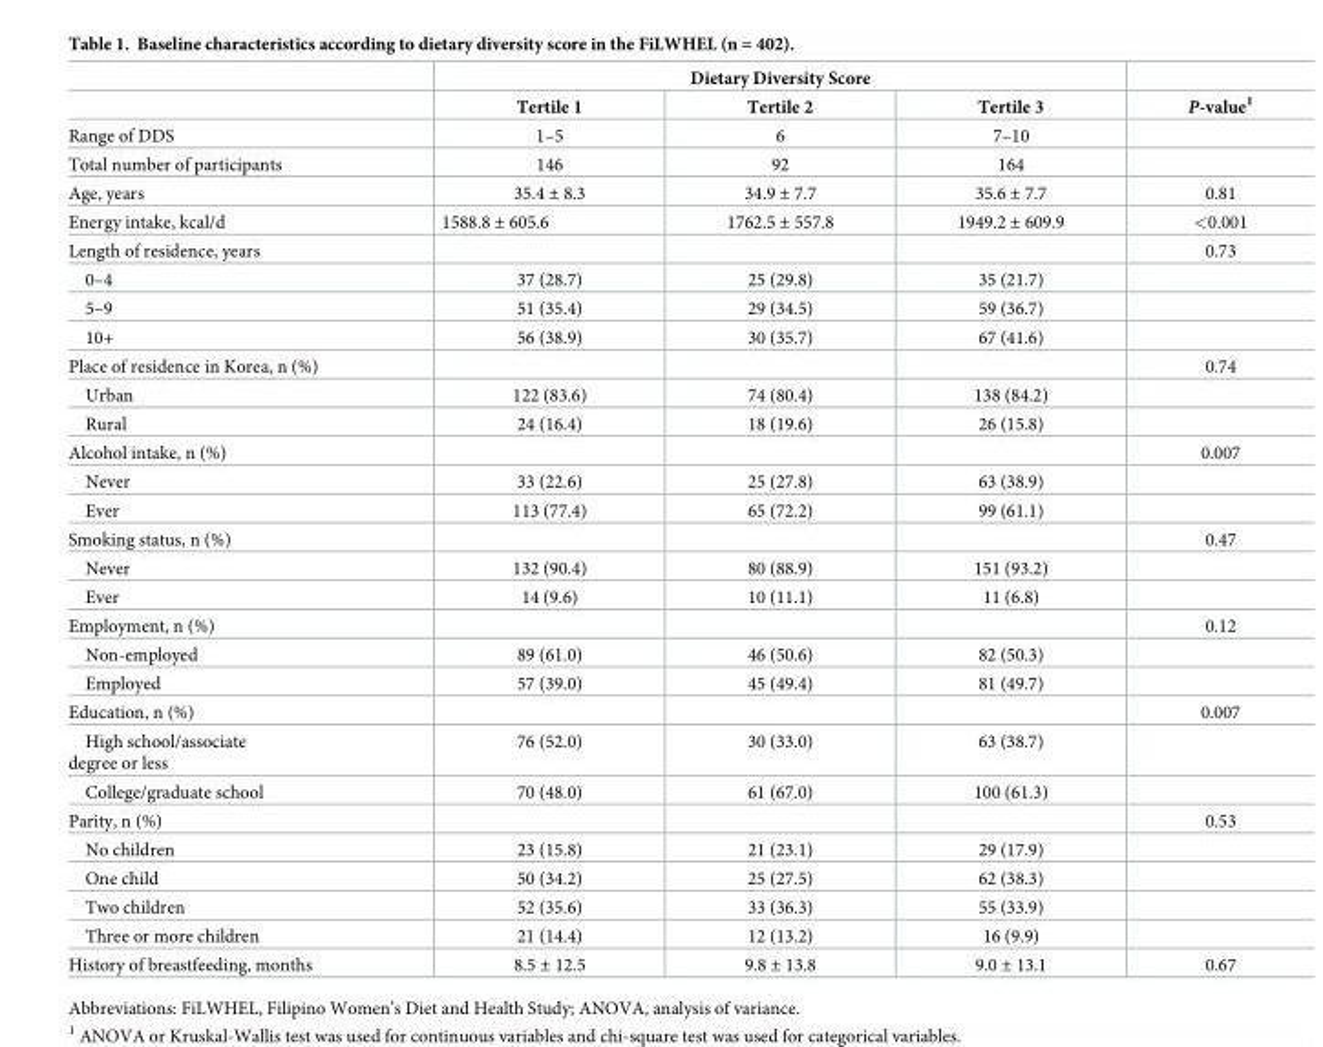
<table><thead><tr><td rowspan="2"></td><td colspan="3">Dietary Diversity Score</td><td rowspan="2">P-value<sup>1</sup></td></tr><tr><td>Tertile 1</td><td>Tertile 2</td><td>Tertile 3</td></tr></thead><tbody><tr><td>Range of DDS</td><td>1–5</td><td>6</td><td>7–10</td><td></td></tr><tr><td>Total number of participants</td><td>146</td><td>92</td><td>164</td><td></td></tr><tr><td>Age, years</td><td>35.4 ± 8.3</td><td>34.9 ± 7.7</td><td>35.6 ± 7.7</td><td>0.81</td></tr><tr><td>Energy intake, kcal/d</td><td>1588.8 ± 605.6</td><td>1762.5 ± 557.8</td><td>1949.2 ± 609.9</td><td>&lt;0.001</td></tr><tr><td>Length of residence, years</td><td></td><td></td><td></td><td>0.73</td></tr><tr><td>0–4</td><td>37 (28.7)</td><td>25 (29.8)</td><td>35 (21.7)</td><td></td></tr><tr><td>5–9</td><td>51 (35.4)</td><td>29 (34.5)</td><td>59 (36.7)</td><td></td></tr><tr><td>10+</td><td>56 (38.9)</td><td>30 (35.7)</td><td>67 (41.6)</td><td></td></tr><tr><td>Place of residence in Korea, n (%)</td><td></td><td></td><td></td><td>0.74</td></tr><tr><td>Urban</td><td>122 (83.6)</td><td>74 (80.4)</td><td>138 (84.2)</td><td></td></tr><tr><td>Rural</td><td>24 (16.4)</td><td>18 (19.6)</td><td>26 (15.8)</td><td></td></tr><tr><td>Alcohol intake, n (%)</td><td></td><td></td><td></td><td>0.007</td></tr><tr><td>Never</td><td>33 (22.6)</td><td>25 (27.8)</td><td>63 (38.9)</td><td></td></tr><tr><td>Ever</td><td>113 (77.4)</td><td>65 (72.2)</td><td>99 (61.1)</td><td></td></tr><tr><td>Smoking status, n (%)</td><td></td><td></td><td></td><td>0.47</td></tr><tr><td>Never</td><td>132 (90.4)</td><td>80 (88.9)</td><td>151 (93.2)</td><td></td></tr><tr><td>Ever</td><td>14 (9.6)</td><td>10 (11.1)</td><td>11 (6.8)</td><td></td></tr><tr><td>Employment, n (%)</td><td></td><td></td><td></td><td>0.12</td></tr><tr><td>Non-employed</td><td>89 (61.0)</td><td>46 (50.6)</td><td>82 (50.3)</td><td></td></tr><tr><td>Employed</td><td>57 (39.0)</td><td>45 (49.4)</td><td>81 (49.7)</td><td></td></tr><tr><td>Education, n (%)</td><td></td><td></td><td></td><td>0.007</td></tr><tr><td>High school/associate degree or less</td><td>76 (52.0)</td><td>30 (33.0)</td><td>63 (38.7)</td><td></td></tr><tr><td>College/graduate school</td><td>70 (48.0)</td><td>61 (67.0)</td><td>100 (61.3)</td><td></td></tr><tr><td>Parity, n (%)</td><td></td><td></td><td></td><td>0.53</td></tr><tr><td>No children</td><td>23 (15.8)</td><td>21 (23.1)</td><td>29 (17.9)</td><td></td></tr><tr><td>One child</td><td>50 (34.2)</td><td>25 (27.5)</td><td>62 (38.3)</td><td></td></tr><tr><td>Two children</td><td>52 (35.6)</td><td>33 (36.3)</td><td>55 (33.9)</td><td></td></tr><tr><td>Three or more children</td><td>21 (14.4)</td><td>12 (13.2)</td><td>16 (9.9)</td><td></td></tr><tr><td>History of breastfeeding, months</td><td>8.5 ± 12.5</td><td>9.8 ± 13.8</td><td>9.0 ± 13.1</td><td>0.67</td></tr></tbody></table>